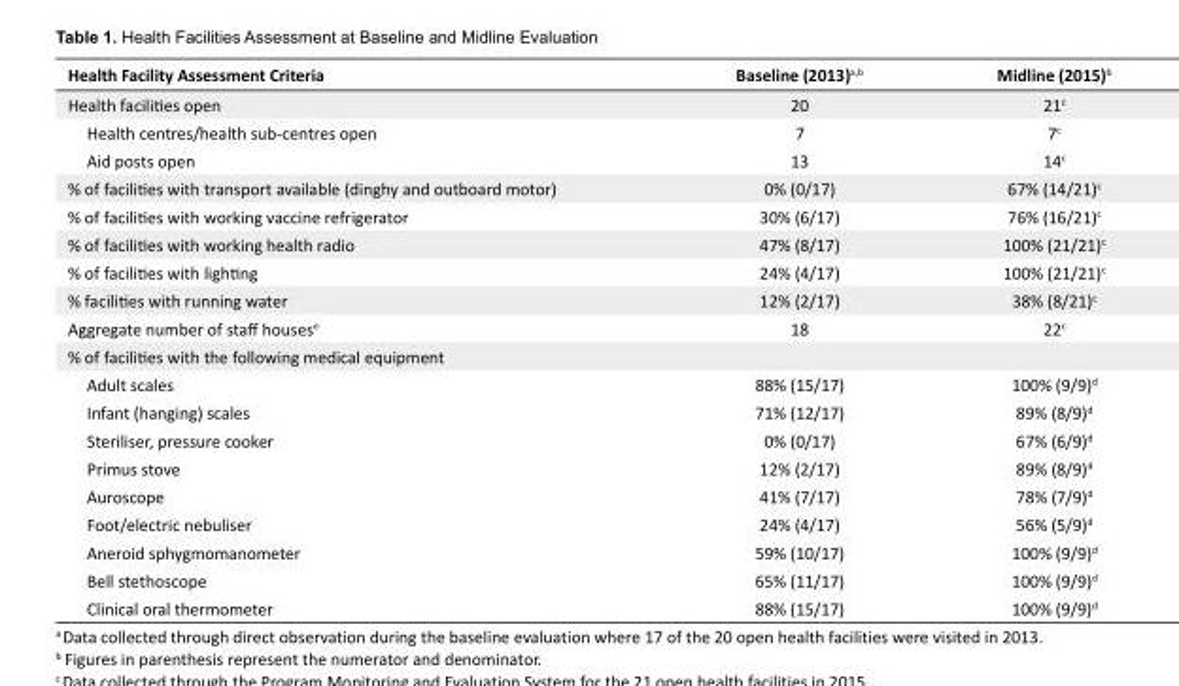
<table><tbody><tr><td>Health Facility Assessment Criteria</td><td>Baseline (2013)<sup>a,b</sup></td><td>Midline (2015)<sup>b</sup></td></tr><tr><td>Health facilities open</td><td>20</td><td>21<sup>c</sup></td></tr><tr><td>Health centres/health sub-centres open</td><td>7</td><td>7<sup>c</sup></td></tr><tr><td>Aid posts open</td><td>13</td><td>14<sup>c</sup></td></tr><tr><td>% of facilities with transport available (dinghy and outboard motor)</td><td>0% (0/17)</td><td>67% (14/21)<sup>c</sup></td></tr><tr><td>% of facilities with working vaccine refrigerator</td><td>30% (6/17)</td><td>76% (16/21)<sup>c</sup></td></tr><tr><td>% of facilities with working health radio</td><td>47% (8/17)</td><td>100% (21/21)<sup>c</sup></td></tr><tr><td>% of facilities with lighting</td><td>24% (4/17)</td><td>100% (21/21)<sup>c</sup></td></tr><tr><td>% facilities with running water</td><td>12% (2/17)</td><td>38% (8/21)<sup>c</sup></td></tr><tr><td>Aggregate number of staff houses<sup>e</sup></td><td>18</td><td>22<sup>c</sup></td></tr><tr><td colspan="3">% of facilities with the following medical equipment</td></tr><tr><td>Adult scales</td><td>88% (15/17)</td><td>100% (9/9)<sup>d</sup></td></tr><tr><td>Infant (hanging) scales</td><td>71% (12/17)</td><td>89% (8/9)<sup>d</sup></td></tr><tr><td>Steriliser, pressure cooker</td><td>0% (0/17)</td><td>67% (6/9)<sup>d</sup></td></tr><tr><td>Primus stove</td><td>12% (2/17)</td><td>89% (8/9)<sup>d</sup></td></tr><tr><td>Auroscope</td><td>41% (7/17)</td><td>78% (7/9)<sup>d</sup></td></tr><tr><td>Foot/electric nebuliser</td><td>24% (4/17)</td><td>56% (5/9)<sup>d</sup></td></tr><tr><td>Aneroid sphygmomanometer</td><td>59% (10/17)</td><td>100% (9/9)<sup>d</sup></td></tr><tr><td>Bell stethoscope</td><td>65% (11/17)</td><td>100% (9/9)<sup>d</sup></td></tr><tr><td>Clinical oral thermometer</td><td>88% (15/17)</td><td>100% (9/9)<sup>d</sup></td></tr></tbody></table>